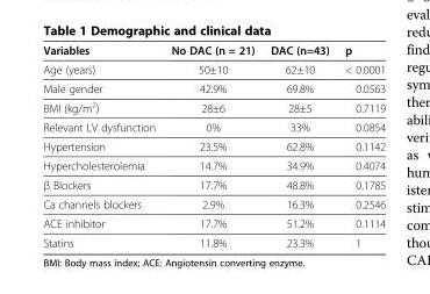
<table><thead><tr><td>Variables</td><td>No DAC (n = 21)</td><td>DAC (n=43)</td><td>p</td></tr></thead><tbody><tr><td>Age (years)</td><td>50±10</td><td>62±10</td><td>&lt; 0.0001</td></tr><tr><td>Male gender</td><td>42.9%</td><td>69.8%</td><td>0.0563</td></tr><tr><td>BMI (kg/m<sup>2</sup>)</td><td>28±6</td><td>28±5</td><td>0.7119</td></tr><tr><td>Relevant LV dysfunction</td><td>0%</td><td>33%</td><td>0.0854</td></tr><tr><td>Hypertension</td><td>23.5%</td><td>62.8%</td><td>0.1142</td></tr><tr><td>Hypercholesterolemia</td><td>14.7%</td><td>34.9%</td><td>0.4074</td></tr><tr><td>β Blockers</td><td>17.7%</td><td>48.8%</td><td>0.1785</td></tr><tr><td>Ca channels blockers</td><td>2.9%</td><td>16.3%</td><td>0.2546</td></tr><tr><td>ACE inhibitor</td><td>17.7%</td><td>51.2%</td><td>0.1114</td></tr><tr><td>Statins</td><td>11.8%</td><td>23.3%</td><td>1</td></tr></tbody></table>